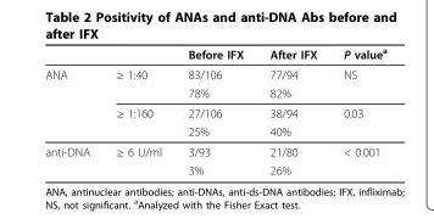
<table><thead><tr><td></td><td></td><td>Before IFX</td><td>After IFX</td><td>P value<sup>a</sup></td></tr></thead><tbody><tr><td rowspan="4">ANA</td><td>≥ 1:40</td><td>83/106</td><td>77/94</td><td>NS</td></tr><tr><td></td><td>78%</td><td>82%</td><td></td></tr><tr><td>≥ 1:160</td><td>27/106</td><td>38/94</td><td>0.03</td></tr><tr><td></td><td>25%</td><td>40%</td><td></td></tr><tr><td rowspan="2">anti-DNA</td><td>≥ 6 U/ml</td><td>3/93</td><td>21/80</td><td>&lt; 0.001</td></tr><tr><td></td><td>3%</td><td>26%</td><td></td></tr></tbody></table>